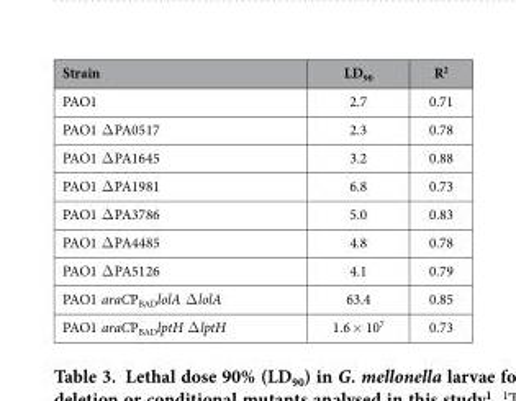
<table><thead><tr><td>Strain</td><td>LD<sub>90</sub></td><td>R<sup>2</sup></td></tr></thead><tbody><tr><td>PAO1</td><td>2.7</td><td>0.71</td></tr><tr><td>PAO1 Δ PA0517</td><td>2.3</td><td>0.78</td></tr><tr><td>PAO1 Δ PA1645</td><td>3.2</td><td>0.88</td></tr><tr><td>PAO1 Δ PA1981</td><td>6.8</td><td>0.73</td></tr><tr><td>PAO1 Δ PA3786</td><td>5.0</td><td>0.83</td></tr><tr><td>PAO1 Δ PA4485</td><td>4.8</td><td>0.78</td></tr><tr><td>PAO1 Δ PA5126</td><td>4.1</td><td>0.79</td></tr><tr><td>PAO1 araCP<sub>BAD</sub>lolA Δ lolA</td><td>63.4</td><td>0.85</td></tr><tr><td>PAO1 araCP<sub>BAD</sub>lptH Δ lptH</td><td>1.6 × 10<sup>7</sup></td><td>0.73</td></tr></tbody></table>